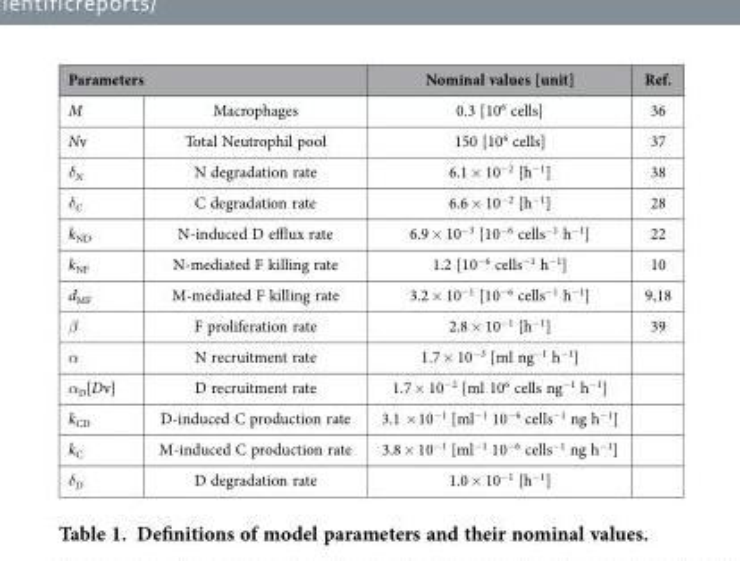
<table><thead><tr><td colspan="2">Parameters</td><td rowspan="2">Nominal values [unit] 0.3 [10<sup>6</sup> cells]</td><td rowspan="2">Ref. 36</td></tr><tr><td>M</td><td>Macrophages</td></tr></thead><tbody><tr><td>Nv</td><td>Total Neutrophil pool</td><td>150 [10<sup>6</sup> cells]</td><td>37</td></tr><tr><td>δ<sub>N</sub></td><td>N degradation rate</td><td>6.1 × 10<sup>−2</sup> [h<sup>−1</sup>]</td><td>38</td></tr><tr><td>δ<sub>C</sub></td><td>C degradation rate</td><td>6.6 × 10<sup>−2</sup> [h<sup>−1</sup>]</td><td>28</td></tr><tr><td>k<sub>ND</sub></td><td>N-induced D efflux rate</td><td>6.9 × 10<sup>−3</sup> [10<sup>−6</sup> cells<sup>−1</sup> h<sup>−1</sup>]</td><td>22</td></tr><tr><td>k<sub>NF</sub></td><td>N-mediated F killing rate</td><td>1.2 [10<sup>−6</sup> cells<sup>−1</sup> h<sup>−1</sup>]</td><td>10</td></tr><tr><td>d<sub>MF</sub></td><td>M-mediated F killing rate</td><td>3.2 × 10<sup>−1</sup> [10<sup>−6</sup> cells<sup>−1</sup> h<sup>−1</sup>]</td><td>9,18</td></tr><tr><td>β</td><td>F proliferation rate</td><td>2.8 × 10<sup>−1</sup> [h<sup>−1</sup>]</td><td>39</td></tr><tr><td>α</td><td>N recruitment rate</td><td>1.7 × 10<sup>−3</sup> [ml ng<sup>−1</sup> h<sup>−1</sup>]</td><td></td></tr><tr><td>α<sub>D</sub>[Dv]</td><td>D recruitment rate</td><td>1.7 × 10<sup>−2</sup> [ml 10<sup>6</sup> cells ng<sup>−1</sup> h<sup>−1</sup>]</td><td></td></tr><tr><td>k<sub>CD</sub></td><td>D-induced C production rate</td><td>3.1 × 10<sup>−1</sup> [ml<sup>−1</sup> 10<sup>−6</sup> cells<sup>−1</sup> ng h<sup>−1</sup>]</td><td></td></tr><tr><td>k<sub>C</sub></td><td>M-induced C production rate</td><td>3.8 × 10<sup>−1</sup> [ml<sup>−1</sup> 10<sup>−6</sup> cells<sup>−1</sup> ng h<sup>−1</sup>]</td><td></td></tr><tr><td>δ<sub>D</sub></td><td>D degradation rate</td><td>1.0 × 10<sup>−1</sup> [h<sup>−1</sup>]</td><td></td></tr></tbody></table>